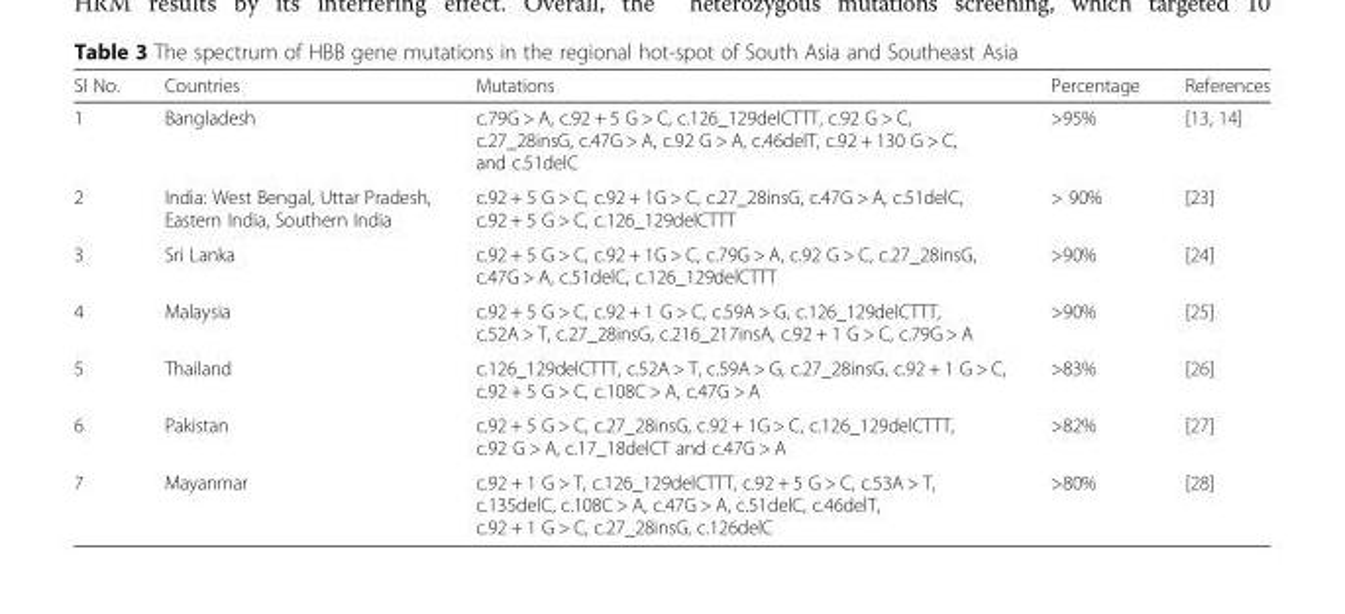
<table><thead><tr><td>Sl No.</td><td>Countries</td><td>Mutations</td><td>Percentage</td><td>References</td></tr></thead><tbody><tr><td>1</td><td>Bangladesh</td><td>c.79G &gt; A, c.92 + 5 G &gt; C, c.126_129delCTTT, c.92 G &gt; C, c.27_28insG, c.47G &gt; A, c.92 G &gt; A, c.46delT, c.92 + 130 G &gt; C, and c.51delC</td><td>&gt;95%</td><td>[13, 14]</td></tr><tr><td>2</td><td>India: West Bengal, Uttar Pradesh, Eastern India, Southern India</td><td>c.92 + 5 G &gt; C, c.92 + 1G &gt; C, c.27_28insG, c.47G &gt; A, c.51delC, c.92 + 5 G &gt; C, c.126_129delCTTT</td><td>&gt; 90%</td><td>[23]</td></tr><tr><td>3</td><td>Sri Lanka</td><td>c.92 + 5 G &gt; C, c.92 + 1G &gt; C, c.79G &gt; A, c.92 G &gt; C, c.27_28insG, c.47G &gt; A, c.51delC, c.126_129delCTTT</td><td>&gt;90%</td><td>[24]</td></tr><tr><td>4</td><td>Malaysia</td><td>c.92 + 5 G &gt; C, c.92 + 1 G &gt; C, c.59A &gt; G, c.126_129delCTTT, c.52A &gt; T, c.27_28insG, c.216_217insA, c.92 + 1 G &gt; C, c.79G &gt; A</td><td>&gt;90%</td><td>[25]</td></tr><tr><td>5</td><td>Thailand</td><td>c.126_129delCTTT, c.52A &gt; T, c.59A &gt; G, c.27_28insG, c.92 + 1 G &gt; C, c.92 + 5 G &gt; C, c.108C &gt; A, c.47G &gt; A</td><td>&gt;83%</td><td>[26]</td></tr><tr><td>6</td><td>Pakistan</td><td>c.92 + 5 G &gt; C, c.27_28insG, c.92 + 1G &gt; C, c.126_129delCTTT, c.92 G &gt; A, c.17_18delCT and c.47G &gt; A</td><td>&gt;82%</td><td>[27]</td></tr><tr><td>7</td><td>Mayanmar</td><td>c.92 + 1 G &gt; T, c.126_129delCTTT, c.92 + 5 G &gt; C, c.53A &gt; T, c.135delC, c.108C &gt; A, c.47G &gt; A, c.51delC, c.46delT, c.92 + 1 G &gt; C, c.27_28insG, c.126delC</td><td>&gt;80%</td><td>[28]</td></tr></tbody></table>